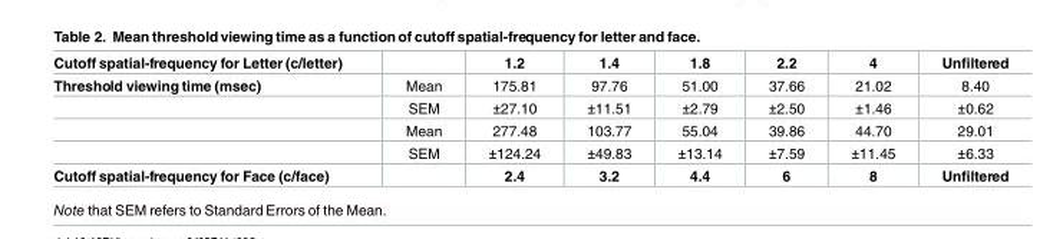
<table><tbody><tr><td>Cutoff spatial-frequency for Letter (c/letter)</td><td></td><td>1.2</td><td>1.4</td><td>1.8</td><td>2.2</td><td>4</td><td>Unfiltered</td></tr><tr><td rowspan="4">Threshold viewing time (msec)</td><td>Mean</td><td>175.81</td><td>97.76</td><td>51.00</td><td>37.66</td><td>21.02</td><td>8.40</td></tr><tr><td>SEM</td><td>±27.10</td><td>±11.51</td><td>±2.79</td><td>±2.50</td><td>±1.46</td><td>±0.62</td></tr><tr><td>Mean</td><td>277.48</td><td>103.77</td><td>55.04</td><td>39.86</td><td>44.70</td><td>29.01</td></tr><tr><td>SEM</td><td>±124.24</td><td>±49.83</td><td>±13.14</td><td>±7.59</td><td>±11.45</td><td>±6.33</td></tr><tr><td>Cutoff spatial-frequency for Face (c/face)</td><td></td><td>2.4</td><td>3.2</td><td>4.4</td><td>6</td><td>8</td><td>Unfiltered</td></tr></tbody></table>